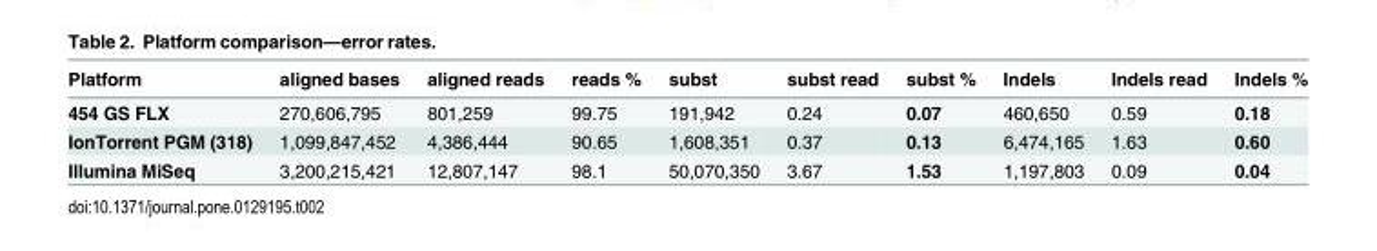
<table><thead><tr><td>Platform</td><td>aligned bases</td><td>aligned reads</td><td>reads %</td><td>subst</td><td>subst read</td><td>subst %</td><td>Indels</td><td>Indels read</td><td>Indels %</td></tr></thead><tbody><tr><td>454 GS FLX</td><td>270,606,795</td><td>801,259</td><td>99.75</td><td>191,942</td><td>0.24</td><td>0.07</td><td>460,650</td><td>0.59</td><td>0.18</td></tr><tr><td>IonTorrent PGM (318)</td><td>1,099,847,452</td><td>4,386,444</td><td>90.65</td><td>1,608,351</td><td>0.37</td><td>0.13</td><td>6,474,165</td><td>1.63</td><td>0.60</td></tr><tr><td>Illumina MiSeq</td><td>3,200,215,421</td><td>12,807,147</td><td>98.1</td><td>50,070,350</td><td>3.67</td><td>1.53</td><td>1,197,803</td><td>0.09</td><td>0.04</td></tr></tbody></table>